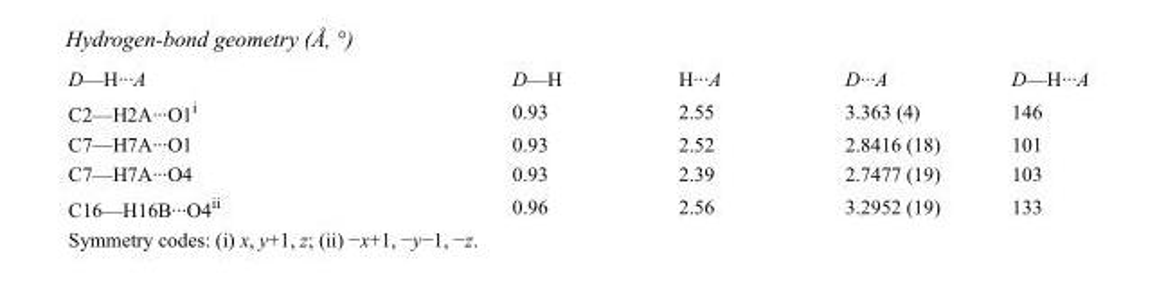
<table><tbody><tr><td>D—H···A</td><td>D—H</td><td>H···A</td><td>D···A</td><td>D—H···A</td></tr><tr><td>C2—H2A···O1<sup>i</sup></td><td>0.93</td><td>2.55</td><td>3.363 (4)</td><td>146</td></tr><tr><td>C7—H7A···O1</td><td>0.93</td><td>2.52</td><td>2.8416 (18)</td><td>101</td></tr><tr><td>C7—H7A···O4</td><td>0.93</td><td>2.39</td><td>2.7477 (19)</td><td>103</td></tr><tr><td>C16—H16B···O4<sup>ii</sup></td><td>0.96</td><td>2.56</td><td>3.2952 (19)</td><td>133</td></tr></tbody></table>